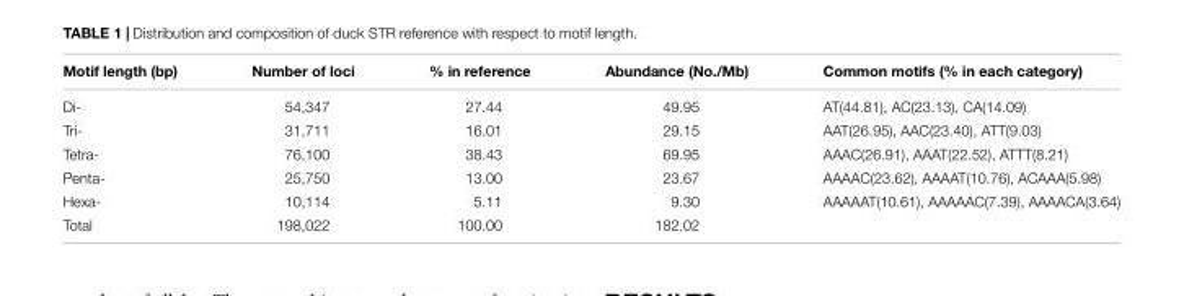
<table><thead><tr><td>Motif length (bp)</td><td>Number of loci</td><td>% in reference</td><td>Abundance (No./Mb)</td><td>Common motifs (% in each category)</td></tr></thead><tbody><tr><td>Di-</td><td>54,347</td><td>27.44</td><td>49.95</td><td>AT(44.81), AC(23.13), CA(14.09)</td></tr><tr><td>Tri-</td><td>31,711</td><td>16.01</td><td>29.15</td><td>AAT(26.95), AAC(23.40), ATT(9.03)</td></tr><tr><td>Tetra-</td><td>76,100</td><td>38.43</td><td>69.95</td><td>AAAC(26.91), AAAT(22.52), ATTT(8.21)</td></tr><tr><td>Penta-</td><td>25,750</td><td>13.00</td><td>23.67</td><td>AAAAC(23.62), AAAAT(10.76), ACAAA(5.98)</td></tr><tr><td>Hexa-</td><td>10,114</td><td>5.11</td><td>9.30</td><td>AAAAAT(10.61), AAAAAC(7.39), AAAACA(3.64)</td></tr><tr><td>Total</td><td>198,022</td><td>100.00</td><td>182.02</td><td></td></tr></tbody></table>